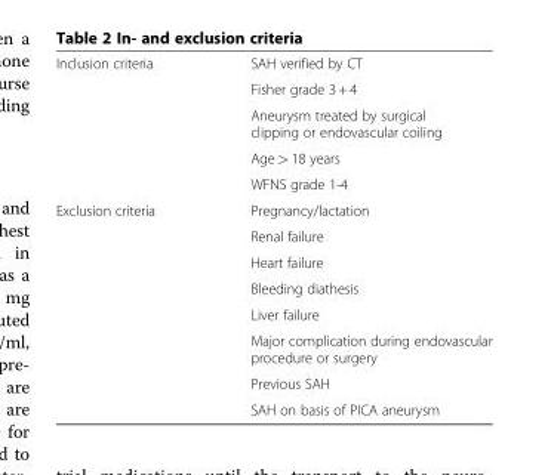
<table><tbody><tr><td rowspan="5">Inclusion criteria</td><td>SAH verified by CT</td></tr><tr><td>Fisher grade 3 + 4</td></tr><tr><td>Aneurysm treated by surgical clipping or endovascular coiling</td></tr><tr><td>Age &gt; 18 years</td></tr><tr><td>WFNS grade 1-4</td></tr><tr><td rowspan="8">Exclusion criteria</td><td>Pregnancy/lactation</td></tr><tr><td>Renal failure</td></tr><tr><td>Heart failure</td></tr><tr><td>Bleeding diathesis</td></tr><tr><td>Liver failure</td></tr><tr><td>Major complication during endovascular procedure or surgery</td></tr><tr><td>Previous SAH</td></tr><tr><td>SAH on basis of PICA aneurysm</td></tr></tbody></table>